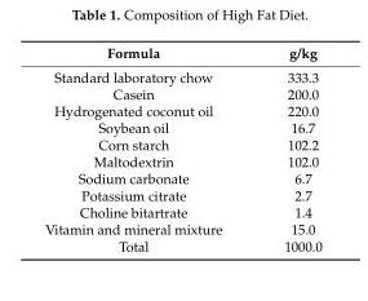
<table><thead><tr><td>Formula</td><td>g/kg</td></tr></thead><tbody><tr><td>Standard laboratory chow</td><td>333.3</td></tr><tr><td>Casein</td><td>200.0</td></tr><tr><td>Hydrogenated coconut oil</td><td>220.0</td></tr><tr><td>Soybean oil</td><td>16.7</td></tr><tr><td>Corn starch</td><td>102.2</td></tr><tr><td>Maltodextrin</td><td>102.0</td></tr><tr><td>Sodium carbonate</td><td>6.7</td></tr><tr><td>Potassium citrate</td><td>2.7</td></tr><tr><td>Choline bitartrate</td><td>1.4</td></tr><tr><td>Vitamin and mineral mixture</td><td>15.0</td></tr><tr><td>Total</td><td>1000.0</td></tr></tbody></table>